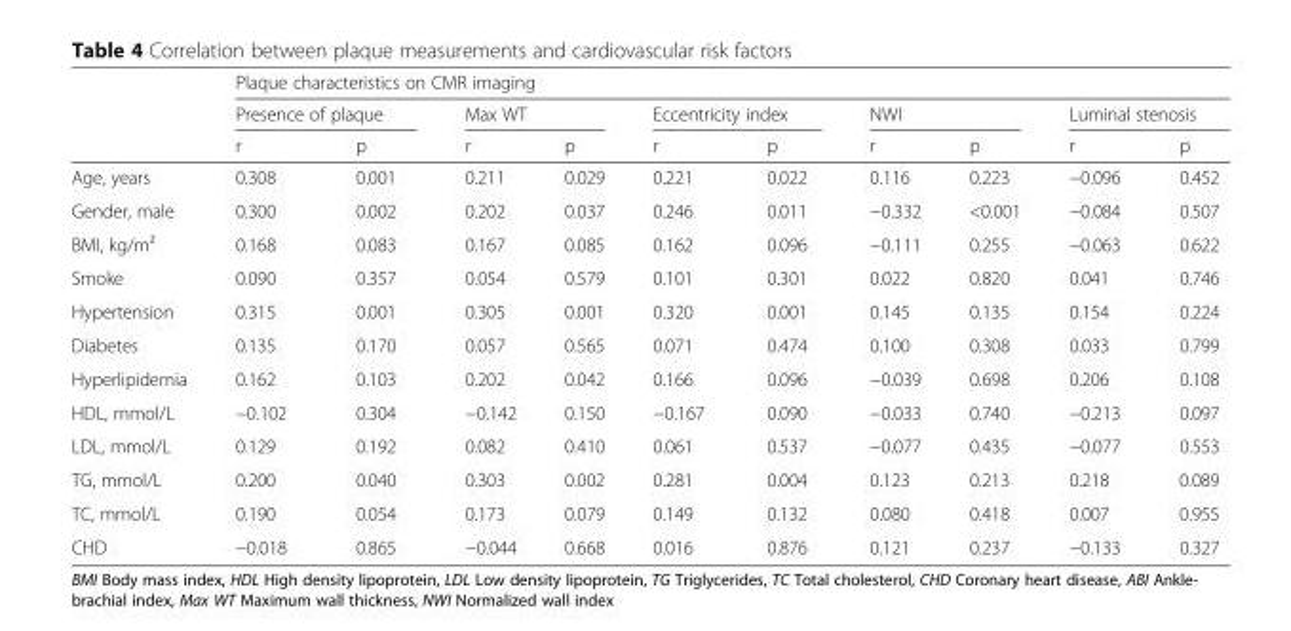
<table><thead><tr><td rowspan="3"></td><td colspan="10">Plaque characteristics on CMR imaging</td></tr><tr><td colspan="2">Presence of plaque</td><td colspan="2">Max WT</td><td colspan="2">Eccentricity index</td><td colspan="2">NWI</td><td colspan="2">Luminal stenosis</td></tr><tr><td>r</td><td>p</td><td>r</td><td>p</td><td>r</td><td>p</td><td>r</td><td>p</td><td>r</td><td>p</td></tr></thead><tbody><tr><td>Age, years</td><td>0.308</td><td>0.001</td><td>0.211</td><td>0.029</td><td>0.221</td><td>0.022</td><td>0.116</td><td>0.223</td><td>−0.096</td><td>0.452</td></tr><tr><td>Gender, male</td><td>0.300</td><td>0.002</td><td>0.202</td><td>0.037</td><td>0.246</td><td>0.011</td><td>−0.332</td><td>&lt;0.001</td><td>−0.084</td><td>0.507</td></tr><tr><td>BMI, kg/m²</td><td>0.168</td><td>0.083</td><td>0.167</td><td>0.085</td><td>0.162</td><td>0.096</td><td>−0.111</td><td>0.255</td><td>−0.063</td><td>0.622</td></tr><tr><td>Smoke</td><td>0.090</td><td>0.357</td><td>0.054</td><td>0.579</td><td>0.101</td><td>0.301</td><td>0.022</td><td>0.820</td><td>0.041</td><td>0.746</td></tr><tr><td>Hypertension</td><td>0.315</td><td>0.001</td><td>0.305</td><td>0.001</td><td>0.320</td><td>0.001</td><td>0.145</td><td>0.135</td><td>0.154</td><td>0.224</td></tr><tr><td>Diabetes</td><td>0.135</td><td>0.170</td><td>0.057</td><td>0.565</td><td>0.071</td><td>0.474</td><td>0.100</td><td>0.308</td><td>0.033</td><td>0.799</td></tr><tr><td>Hyperlipidemia</td><td>0.162</td><td>0.103</td><td>0.202</td><td>0.042</td><td>0.166</td><td>0.096</td><td>−0.039</td><td>0.698</td><td>0.206</td><td>0.108</td></tr><tr><td>HDL, mmol/L</td><td>−0.102</td><td>0.304</td><td>−0.142</td><td>0.150</td><td>−0.167</td><td>0.090</td><td>−0.033</td><td>0.740</td><td>−0.213</td><td>0.097</td></tr><tr><td>LDL, mmol/L</td><td>0.129</td><td>0.192</td><td>0.082</td><td>0.410</td><td>0.061</td><td>0.537</td><td>−0.077</td><td>0.435</td><td>−0.077</td><td>0.553</td></tr><tr><td>TG, mmol/L</td><td>0.200</td><td>0.040</td><td>0.303</td><td>0.002</td><td>0.281</td><td>0.004</td><td>0.123</td><td>0.213</td><td>0.218</td><td>0.089</td></tr><tr><td>TC, mmol/L</td><td>0.190</td><td>0.054</td><td>0.173</td><td>0.079</td><td>0.149</td><td>0.132</td><td>0.080</td><td>0.418</td><td>0.007</td><td>0.955</td></tr><tr><td>CHD</td><td>−0.018</td><td>0.865</td><td>−0.044</td><td>0.668</td><td>0.016</td><td>0.876</td><td>0.121</td><td>0.237</td><td>−0.133</td><td>0.327</td></tr></tbody></table>